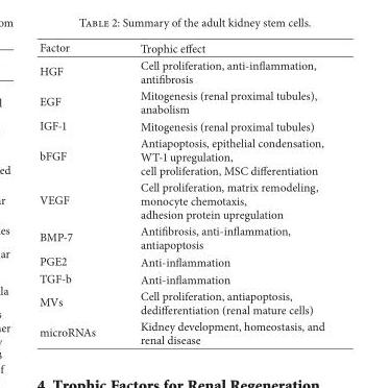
<table><thead><tr><td>Factor</td><td>Trophic effect</td></tr></thead><tbody><tr><td>HGF</td><td>Cell proliferation, anti-inflammation, antifibrosis</td></tr><tr><td>EGF</td><td>Mitogenesis (renal proximal tubules), anabolism</td></tr><tr><td>IGF-1</td><td>Mitogenesis (renal proximal tubules)</td></tr><tr><td>bFGF</td><td>Antiapoptosis, epithelial condensation, WT-1 upregulation, cell proliferation, MSC differentiation</td></tr><tr><td>VEGF</td><td>Cell proliferation, matrix remodeling, monocyte chemotaxis, adhesion protein upregulation</td></tr><tr><td>BMP-7</td><td>Antifibrosis, anti-inflammation, antiapoptosis</td></tr><tr><td>PGE2</td><td>Anti-inflammation</td></tr><tr><td>TGF-b</td><td>Anti-inflammation</td></tr><tr><td>MVs</td><td>Cell proliferation, antiapoptosis, dedifferentiation (renal mature cells)</td></tr><tr><td>microRNAs</td><td>Kidney development, homeostasis, and renal disease</td></tr></tbody></table>